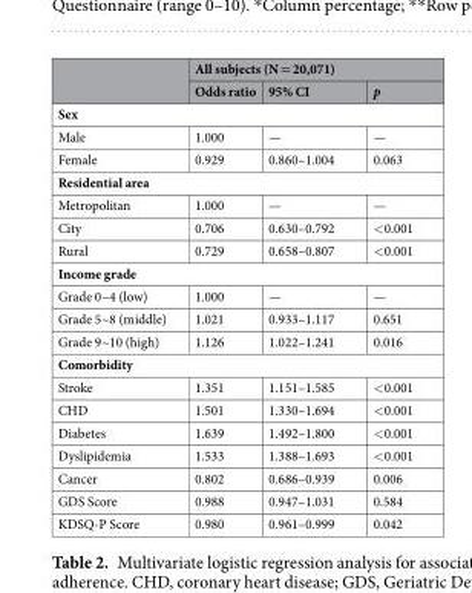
<table><thead><tr><td rowspan="2"></td><td colspan="3">All subjects (N = 20,071)</td></tr><tr><td>Odds ratio</td><td>95% CI</td><td>p</td></tr></thead><tbody><tr><td colspan="4">Sex</td></tr><tr><td>Male</td><td>1.000</td><td>—</td><td>—</td></tr><tr><td>Female</td><td>0.929</td><td>0.860–1.004</td><td>0.063</td></tr><tr><td colspan="4">Residential area</td></tr><tr><td>Metropolitan</td><td>1.000</td><td>—</td><td>—</td></tr><tr><td>City</td><td>0.706</td><td>0.630–0.792</td><td>&lt;0.001</td></tr><tr><td>Rural</td><td>0.729</td><td>0.658–0.807</td><td>&lt;0.001</td></tr><tr><td colspan="4">Income grade</td></tr><tr><td>Grade 0~4 (low)</td><td>1.000</td><td>—</td><td>—</td></tr><tr><td>Grade 5~8 (middle)</td><td>1.021</td><td>0.933–1.117</td><td>0.651</td></tr><tr><td>Grade 9~10 (high)</td><td>1.126</td><td>1.022–1.241</td><td>0.016</td></tr><tr><td colspan="4">Comorbidity</td></tr><tr><td>Stroke</td><td>1.351</td><td>1.151–1.585</td><td>&lt;0.001</td></tr><tr><td>CHD</td><td>1.501</td><td>1.330–1.694</td><td>&lt;0.001</td></tr><tr><td>Diabetes</td><td>1.639</td><td>1.492–1.800</td><td>&lt;0.001</td></tr><tr><td>Dyslipidemia</td><td>1.533</td><td>1.388–1.693</td><td>&lt;0.001</td></tr><tr><td>Cancer</td><td>0.802</td><td>0.686–0.939</td><td>0.006</td></tr><tr><td>GDS Score</td><td>0.988</td><td>0.947–1.031</td><td>0.584</td></tr><tr><td>KDSQ-P Score</td><td>0.980</td><td>0.961–0.999</td><td>0.042</td></tr></tbody></table>